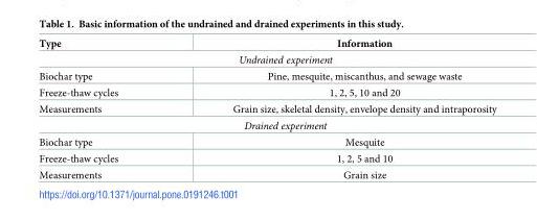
<table><thead><tr><td>Type</td><td>Information</td></tr></thead><tbody><tr><td colspan="2">Undrained experiment</td></tr><tr><td>Biochar type</td><td>Pine, mesquite, miscanthus, and sewage waste</td></tr><tr><td>Freeze-thaw cycles</td><td>1, 2, 5, 10 and 20</td></tr><tr><td>Measurements</td><td>Grain size, skeletal density, envelope density and intraporosity</td></tr><tr><td colspan="2">Drained experiment</td></tr><tr><td>Biochar type</td><td>Mesquite</td></tr><tr><td>Freeze-thaw cycles</td><td>1, 2, 5 and 10</td></tr><tr><td>Measurements</td><td>Grain size</td></tr></tbody></table>